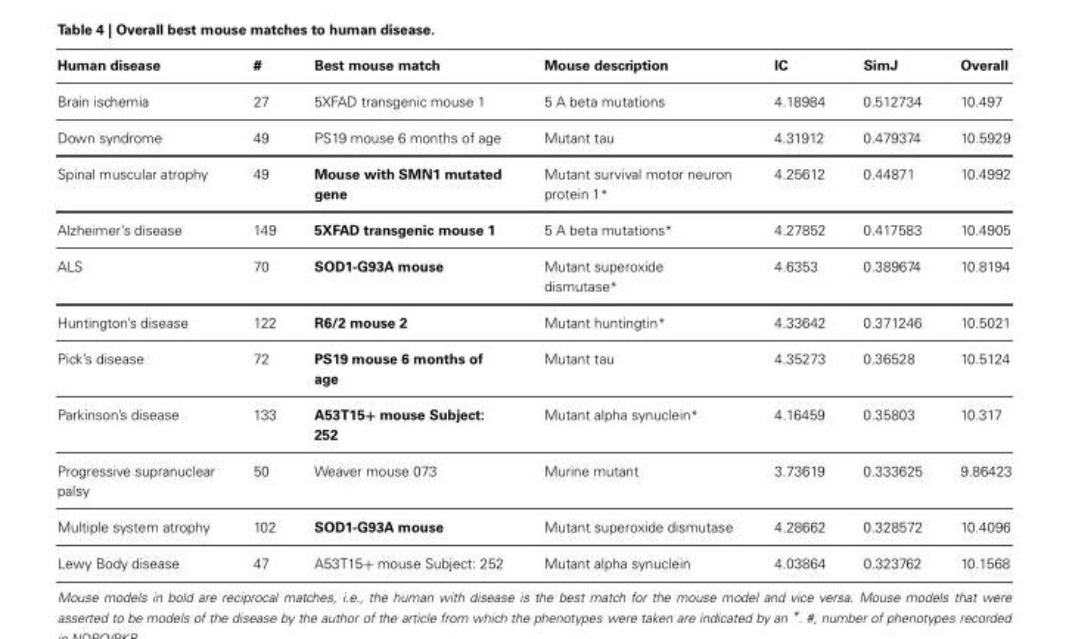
<table><thead><tr><td>Human disease</td><td>#</td><td>Best mouse match</td><td>Mouse description</td><td>IC</td><td>SimJ</td><td>Overall</td></tr></thead><tbody><tr><td>Brain ischemia</td><td>27</td><td>5XFAD transgenic mouse 1</td><td>5 A beta mutations</td><td>4.18984</td><td>0.512734</td><td>10.497</td></tr><tr><td>Down syndrome</td><td>49</td><td>PS19 mouse 6 months of age</td><td>Mutant tau</td><td>4.31912</td><td>0.479374</td><td>10.5929</td></tr><tr><td>Spinal muscular atrophy</td><td>49</td><td>Mouse with SMN1 mutated gene</td><td>Mutant survival motor neuron protein 1*</td><td>4.25612</td><td>0.44871</td><td>10.4992</td></tr><tr><td>Alzheimer’s disease</td><td>149</td><td>5XFAD transgenic mouse 1</td><td>5 A beta mutations*</td><td>4.27852</td><td>0.417583</td><td>10.4905</td></tr><tr><td>ALS</td><td>70</td><td>SOD1-G93A mouse</td><td>Mutant superoxide dismutase*</td><td>4.6353</td><td>0.389674</td><td>10.8194</td></tr><tr><td>Huntington’s disease</td><td>122</td><td>R6/2 mouse 2</td><td>Mutant huntingtin*</td><td>4.33642</td><td>0.371246</td><td>10.5021</td></tr><tr><td>Pick’s disease</td><td>72</td><td>PS19 mouse 6 months of age</td><td>Mutant tau</td><td>4.35273</td><td>0.36528</td><td>10.5124</td></tr><tr><td>Parkinson’s disease</td><td>133</td><td>A53T15+ mouse Subject: 252</td><td>Mutant alpha synuclein*</td><td>4.16459</td><td>0.35803</td><td>10.317</td></tr><tr><td>Progressive supranuclear palsy</td><td>50</td><td>Weaver mouse 073</td><td>Murine mutant</td><td>3.73619</td><td>0.333625</td><td>9.86423</td></tr><tr><td>Multiple system atrophy</td><td>102</td><td>SOD1-G93A mouse</td><td>Mutant superoxide dismutase</td><td>4.28662</td><td>0.328572</td><td>10.4096</td></tr><tr><td>Lewy Body disease</td><td>47</td><td>A53T15+ mouse Subject: 252</td><td>Mutant alpha synuclein</td><td>4.03864</td><td>0.323762</td><td>10.1568</td></tr></tbody></table>